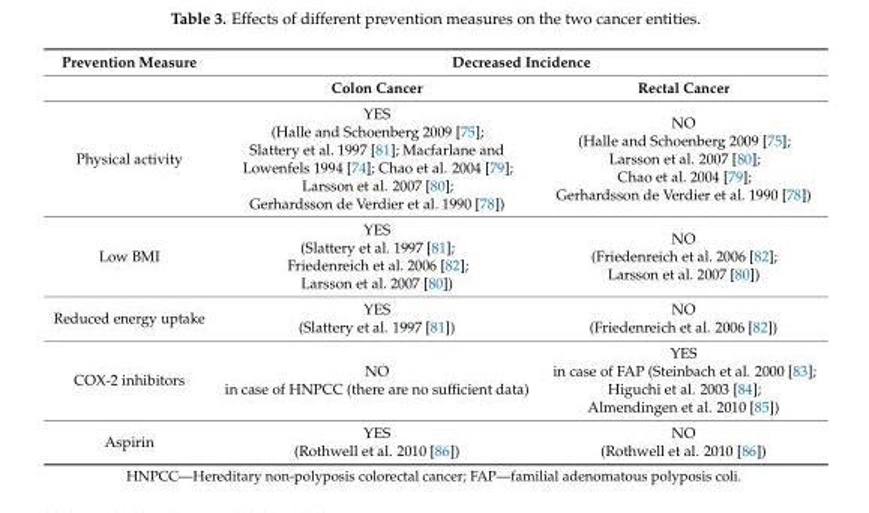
<table><thead><tr><td rowspan="2">Prevention Measure</td><td colspan="2">Decreased Incidence</td></tr><tr><td>Colon Cancer</td><td>Rectal Cancer</td></tr></thead><tbody><tr><td>Physical activity</td><td>YES (Halle and Schoenberg 2009 [75]; Slattery et al. 1997 [81]; Macfarlane and Lowenfels 1994 [74]; Chao et al. 2004 [79]; Larsson et al. 2007 [80]; Gerhardsson de Verdier et al. 1990 [78])</td><td>NO (Halle and Schoenberg 2009 [75]; Larsson et al. 2007 [80]; Chao et al. 2004 [79]; Gerhardsson de Verdier et al. 1990 [78])</td></tr><tr><td>Low BMI</td><td>YES (Slattery et al. 1997 [81]; Friedenreich et al. 2006 [82]; Larsson et al. 2007 [80])</td><td>NO (Friedenreich et al. 2006 [82]; Larsson et al. 2007 [80])</td></tr><tr><td>Reduced energy uptake</td><td>YES (Slattery et al. 1997 [81])</td><td>NO (Friedenreich et al. 2006 [82])</td></tr><tr><td>COX-2 inhibitors</td><td>NO in case of HNPCC (there are no sufficient data)</td><td>YES in case of FAP (Steinbach et al. 2000 [83]; Higuchi et al. 2003 [84]; Almendingen et al. 2010 [85])</td></tr><tr><td>Aspirin</td><td>YES (Rothwell et al. 2010 [86])</td><td>NO (Rothwell et al. 2010 [86])</td></tr></tbody></table>